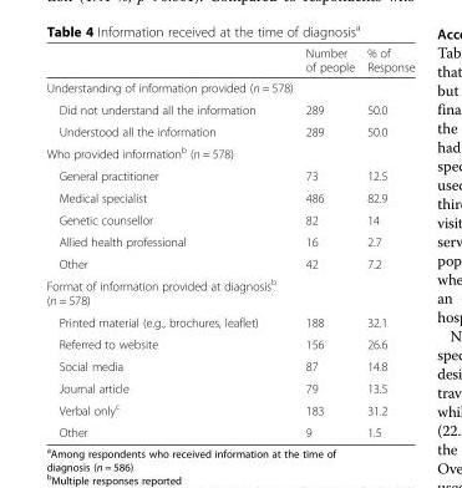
<table><thead><tr><td></td><td>Number of people</td><td>% of Response</td></tr></thead><tbody><tr><td colspan="3">Understanding of information provided (n = 578)</td></tr><tr><td>Did not understand all the information</td><td>289</td><td>50.0</td></tr><tr><td>Understood all the information</td><td>289</td><td>50.0</td></tr><tr><td colspan="3">Who provided information<sup>b</sup> (n = 578)</td></tr><tr><td>General practitioner</td><td>73</td><td>12.5</td></tr><tr><td>Medical specialist</td><td>486</td><td>82.9</td></tr><tr><td>Genetic counsellor</td><td>82</td><td>14</td></tr><tr><td>Allied health professional</td><td>16</td><td>2.7</td></tr><tr><td>Other</td><td>42</td><td>7.2</td></tr><tr><td colspan="3">Format of information provided at diagnosis<sup>b</sup> (n = 578)</td></tr><tr><td>Printed material (e.g., brochures, leaflet)</td><td>188</td><td>32.1</td></tr><tr><td>Referred to website</td><td>156</td><td>26.6</td></tr><tr><td>Social media</td><td>87</td><td>14.8</td></tr><tr><td>Journal article</td><td>79</td><td>13.5</td></tr><tr><td>Verbal only<sup>c</sup></td><td>183</td><td>31.2</td></tr><tr><td>Other</td><td>9</td><td>1.5</td></tr></tbody></table>